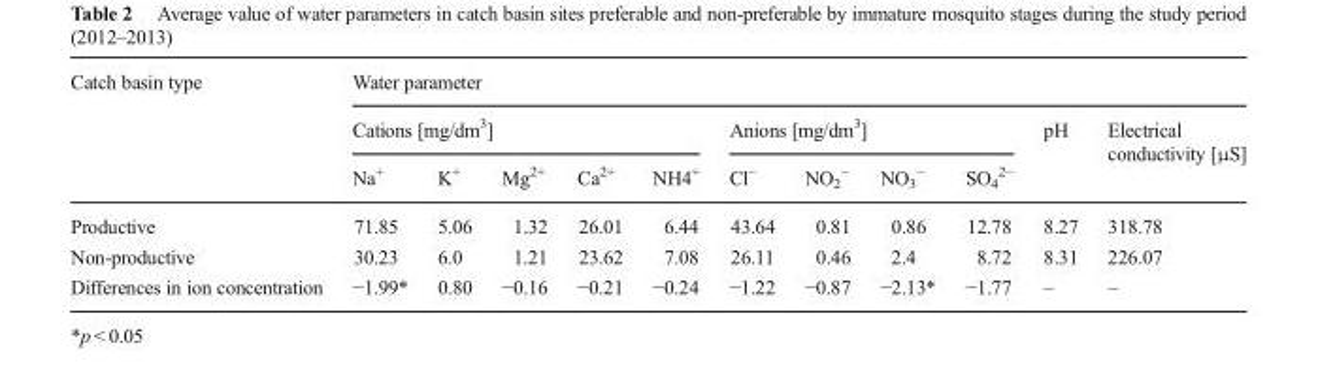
<table><thead><tr><td rowspan="3">Catch basin type</td><td colspan="11">Water parameter</td></tr><tr><td colspan="5">Cations [mg/dm<sup>3</sup>]</td><td colspan="4">Anions [mg/dm<sup>3</sup>]</td><td rowspan="2">pH</td><td rowspan="2">Electrical conductivity [μS]</td></tr><tr><td>Na<sup>+</sup></td><td>K<sup>+</sup></td><td>Mg<sup>2+</sup></td><td>Ca<sup>2+</sup></td><td>NH4<sup>+</sup></td><td>Cl<sup>−</sup></td><td>NO<sub>2</sub> <sup>−</sup></td><td>NO<sub>3</sub> <sup>−</sup></td><td>SO<sub>4</sub> <sup>2−</sup></td></tr></thead><tbody><tr><td>Productive</td><td>71.85</td><td>5.06</td><td>1.32</td><td>26.01</td><td>6.44</td><td>43.64</td><td>0.81</td><td>0.86</td><td>12.78</td><td>8.27</td><td>318.78</td></tr><tr><td>Non-productive</td><td>30.23</td><td>6.0</td><td>1.21</td><td>23.62</td><td>7.08</td><td>26.11</td><td>0.46</td><td>2.4</td><td>8.72</td><td>8.31</td><td>226.07</td></tr><tr><td>Differences in ion concentration</td><td>−1.99*</td><td>0.80</td><td>−0.16</td><td>−0.21</td><td>−0.24</td><td>−1.22</td><td>−0.87</td><td>−2.13*</td><td>−1.77</td><td>–</td><td>–</td></tr></tbody></table>